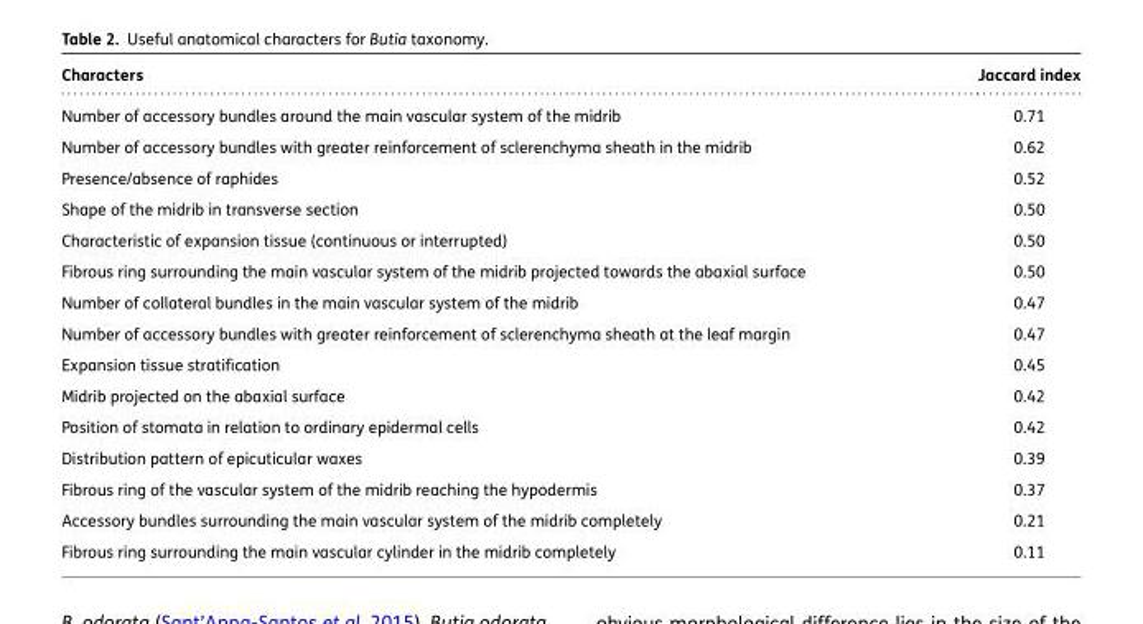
<table><thead><tr><td>Characters</td><td>Jaccard index</td></tr></thead><tbody><tr><td>Number of accessory bundles around the main vascular system of the midrib</td><td>0.71</td></tr><tr><td>Number of accessory bundles with greater reinforcement of sclerenchyma sheath in the midrib</td><td>0.62</td></tr><tr><td>Presence/absence of raphides</td><td>0.52</td></tr><tr><td>Shape of the midrib in transverse section</td><td>0.50</td></tr><tr><td>Characteristic of expansion tissue (continuous or interrupted)</td><td>0.50</td></tr><tr><td>Fibrous ring surrounding the main vascular system of the midrib projected towards the abaxial surface</td><td>0.50</td></tr><tr><td>Number of collateral bundles in the main vascular system of the midrib</td><td>0.47</td></tr><tr><td>Number of accessory bundles with greater reinforcement of sclerenchyma sheath at the leaf margin</td><td>0.47</td></tr><tr><td>Expansion tissue stratification</td><td>0.45</td></tr><tr><td>Midrib projected on the abaxial surface</td><td>0.42</td></tr><tr><td>Position of stomata in relation to ordinary epidermal cells</td><td>0.42</td></tr><tr><td>Distribution pattern of epicuticular waxes</td><td>0.39</td></tr><tr><td>Fibrous ring of the vascular system of the midrib reaching the hypodermis</td><td>0.37</td></tr><tr><td>Accessory bundles surrounding the main vascular system of the midrib completely</td><td>0.21</td></tr><tr><td>Fibrous ring surrounding the main vascular cylinder in the midrib completely</td><td>0.11</td></tr></tbody></table>